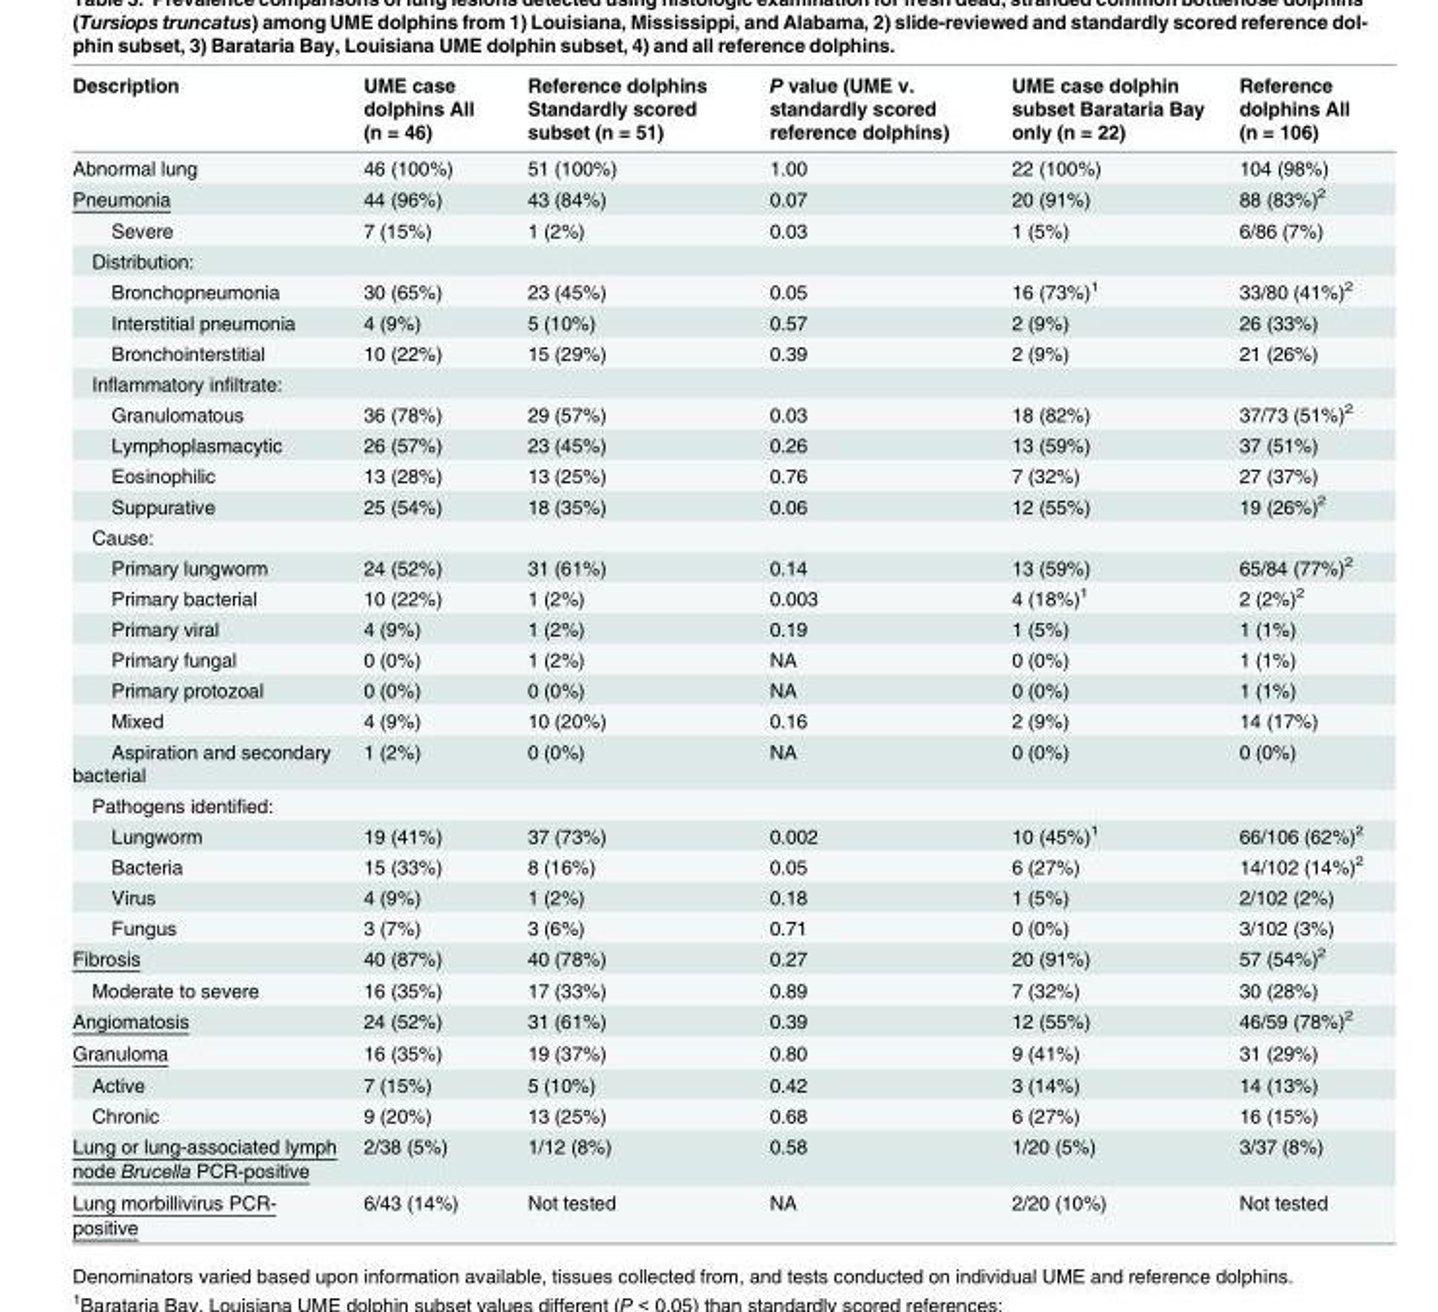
<table><thead><tr><td>Description</td><td>UME case dolphins All (n = 46)</td><td>Reference dolphins Standardly scored subset (n = 51)</td><td>P value (UME v. standardly scored reference dolphins)</td><td>UME case dolphin subset Barataria Bay only (n = 22)</td><td>Reference dolphins All (n = 106)</td></tr></thead><tbody><tr><td>Abnormal lung</td><td>46 (100%)</td><td>51 (100%)</td><td>1.00</td><td>22 (100%)</td><td>104 (98%)</td></tr><tr><td>Pneumonia</td><td>44 (96%)</td><td>43 (84%)</td><td>0.07</td><td>20 (91%)</td><td>88 (83%)<sup>2</sup></td></tr><tr><td>Severe</td><td>7 (15%)</td><td>1 (2%)</td><td>0.03</td><td>1 (5%)</td><td>6/86 (7%)</td></tr><tr><td colspan="6">Distribution:</td></tr><tr><td>Bronchopneumonia</td><td>30 (65%)</td><td>23 (45%)</td><td>0.05</td><td>16 (73%)<sup>1</sup></td><td>33/80 (41%)<sup>2</sup></td></tr><tr><td>Interstitial pneumonia</td><td>4 (9%)</td><td>5 (10%)</td><td>0.57</td><td>2 (9%)</td><td>26 (33%)</td></tr><tr><td>Bronchointerstitial</td><td>10 (22%)</td><td>15 (29%)</td><td>0.39</td><td>2 (9%)</td><td>21 (26%)</td></tr><tr><td colspan="6">Inflammatory infiltrate:</td></tr><tr><td>Granulomatous</td><td>36 (78%)</td><td>29 (57%)</td><td>0.03</td><td>18 (82%)</td><td>37/73 (51%)<sup>2</sup></td></tr><tr><td>Lymphoplasmacytic</td><td>26 (57%)</td><td>23 (45%)</td><td>0.26</td><td>13 (59%)</td><td>37 (51%)</td></tr><tr><td>Eosinophilic</td><td>13 (28%)</td><td>13 (25%)</td><td>0.76</td><td>7 (32%)</td><td>27 (37%)</td></tr><tr><td>Suppurative</td><td>25 (54%)</td><td>18 (35%)</td><td>0.06</td><td>12 (55%)</td><td>19 (26%)<sup>2</sup></td></tr><tr><td colspan="6">Cause:</td></tr><tr><td>Primary lungworm</td><td>24 (52%)</td><td>31 (61%)</td><td>0.14</td><td>13 (59%)</td><td>65/84 (77%)<sup>2</sup></td></tr><tr><td>Primary bacterial</td><td>10 (22%)</td><td>1 (2%)</td><td>0.003</td><td>4 (18%)<sup>1</sup></td><td>2 (2%)<sup>2</sup></td></tr><tr><td>Primary viral</td><td>4 (9%)</td><td>1 (2%)</td><td>0.19</td><td>1 (5%)</td><td>1 (1%)</td></tr><tr><td>Primary fungal</td><td>0 (0%)</td><td>1 (2%)</td><td>NA</td><td>0 (0%)</td><td>1 (1%)</td></tr><tr><td>Primary protozoal</td><td>0 (0%)</td><td>0 (0%)</td><td>NA</td><td>0 (0%)</td><td>1 (1%)</td></tr><tr><td>Mixed</td><td>4 (9%)</td><td>10 (20%)</td><td>0.16</td><td>2 (9%)</td><td>14 (17%)</td></tr><tr><td>Aspiration and secondary bacterial</td><td>1 (2%)</td><td>0 (0%)</td><td>NA</td><td>0 (0%)</td><td>0 (0%)</td></tr><tr><td colspan="6">Pathogens identified:</td></tr><tr><td>Lungworm</td><td>19 (41%)</td><td>37 (73%)</td><td>0.002</td><td>10 (45%)<sup>1</sup></td><td>66/106 (62%)<sup>2</sup></td></tr><tr><td>Bacteria</td><td>15 (33%)</td><td>8 (16%)</td><td>0.05</td><td>6 (27%)</td><td>14/102 (14%)<sup>2</sup></td></tr><tr><td>Virus</td><td>4 (9%)</td><td>1 (2%)</td><td>0.18</td><td>1 (5%)</td><td>2/102 (2%)</td></tr><tr><td>Fungus</td><td>3 (7%)</td><td>3 (6%)</td><td>0.71</td><td>0 (0%)</td><td>3/102 (3%)</td></tr><tr><td>Fibrosis</td><td>40 (87%)</td><td>40 (78%)</td><td>0.27</td><td>20 (91%)</td><td>57 (54%)<sup>2</sup></td></tr><tr><td>Moderate to severe</td><td>16 (35%)</td><td>17 (33%)</td><td>0.89</td><td>7 (32%)</td><td>30 (28%)</td></tr><tr><td>Angiomatosis</td><td>24 (52%)</td><td>31 (61%)</td><td>0.39</td><td>12 (55%)</td><td>46/59 (78%)<sup>2</sup></td></tr><tr><td>Granuloma</td><td>16 (35%)</td><td>19 (37%)</td><td>0.80</td><td>9 (41%)</td><td>31 (29%)</td></tr><tr><td>Active</td><td>7 (15%)</td><td>5 (10%)</td><td>0.42</td><td>3 (14%)</td><td>14 (13%)</td></tr><tr><td>Chronic</td><td>9 (20%)</td><td>13 (25%)</td><td>0.68</td><td>6 (27%)</td><td>16 (15%)</td></tr><tr><td>Lung or lung-associated lymph node Brucella PCR-positive</td><td>2/38 (5%)</td><td>1/12 (8%)</td><td>0.58</td><td>1/20 (5%)</td><td>3/37 (8%)</td></tr><tr><td>Lung morbillivirus PCR- positive</td><td>6/43 (14%)</td><td>Not tested</td><td>NA</td><td>2/20 (10%)</td><td>Not tested</td></tr></tbody></table>